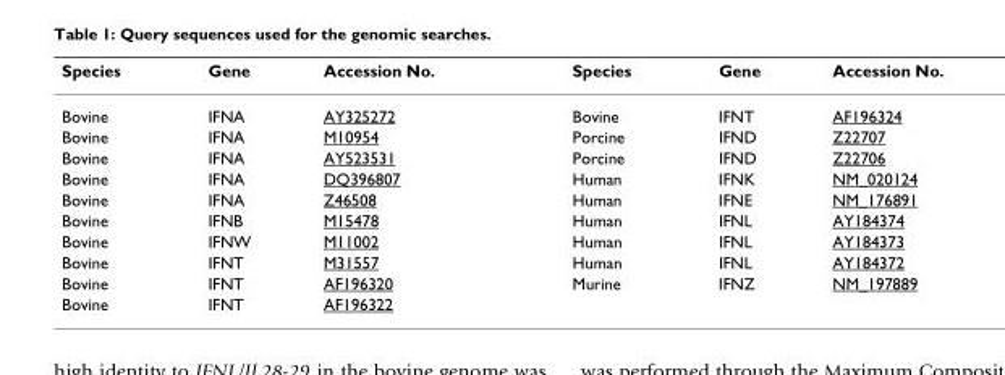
<table><thead><tr><td>Species</td><td>Gene</td><td>Accession No.</td><td>Species</td><td>Gene</td><td>Accession No.</td></tr></thead><tbody><tr><td>Bovine</td><td>IFNA</td><td>AY325272</td><td>Bovine</td><td>IFNT</td><td>AF196324</td></tr><tr><td>Bovine</td><td>IFNA</td><td>M10954</td><td>Porcine</td><td>IFND</td><td>Z22707</td></tr><tr><td>Bovine</td><td>IFNA</td><td>AY523531</td><td>Porcine</td><td>IFND</td><td>Z22706</td></tr><tr><td>Bovine</td><td>IFNA</td><td>DQ396807</td><td>Human</td><td>IFNK</td><td>NM_020124</td></tr><tr><td>Bovine</td><td>IFNA</td><td>Z46508</td><td>Human</td><td>IFNE</td><td>NM_176891</td></tr><tr><td>Bovine</td><td>IFNB</td><td>M15478</td><td>Human</td><td>IFNL</td><td>AY184374</td></tr><tr><td>Bovine</td><td>IFNW</td><td>M11002</td><td>Human</td><td>IFNL</td><td>AY184373</td></tr><tr><td>Bovine</td><td>IFNT</td><td>M31557</td><td>Human</td><td>IFNL</td><td>AY184372</td></tr><tr><td>Bovine</td><td>IFNT</td><td>AF196320</td><td>Murine</td><td>IFNZ</td><td>NM_197889</td></tr><tr><td>Bovine</td><td>IFNT</td><td>AF196322</td><td></td><td></td><td></td></tr></tbody></table>